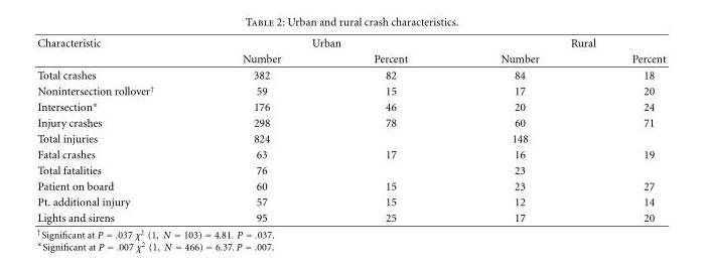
<table><thead><tr><td rowspan="2">Characteristic</td><td colspan="2">Urban</td><td colspan="2">Rural</td></tr><tr><td>Number</td><td>Percent</td><td>Number</td><td>Percent</td></tr></thead><tbody><tr><td>Total crashes</td><td>382</td><td>82</td><td>84</td><td>18</td></tr><tr><td>Nonintersection rollover<sup>†</sup></td><td>59</td><td>15</td><td>17</td><td>20</td></tr><tr><td>Intersection∗</td><td>176</td><td>46</td><td>20</td><td>24</td></tr><tr><td>Injury crashes</td><td>298</td><td>78</td><td>60</td><td>71</td></tr><tr><td>Total injuries</td><td>824</td><td></td><td>148</td><td></td></tr><tr><td>Fatal crashes</td><td>63</td><td>17</td><td>16</td><td>19</td></tr><tr><td>Total fatalities</td><td>76</td><td></td><td>23</td><td></td></tr><tr><td>Patient on board</td><td>60</td><td>15</td><td>23</td><td>27</td></tr><tr><td>Pt. additional injury</td><td>57</td><td>15</td><td>12</td><td>14</td></tr><tr><td>Lights and sirens</td><td>95</td><td>25</td><td>17</td><td>20</td></tr></tbody></table>